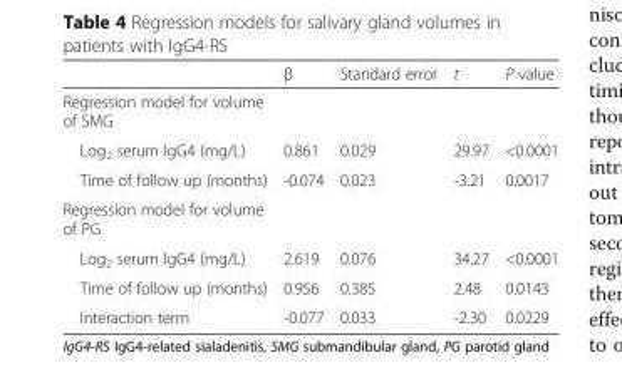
<table><thead><tr><td></td><td>β</td><td>Standard error</td><td>t</td><td>P value</td></tr></thead><tbody><tr><td colspan="5">Regression model for volume of SMG</td></tr><tr><td>Log<sub>2</sub> serum IgG4 (mg/L)</td><td>0.861</td><td>0.029</td><td>29.97</td><td>&lt;0.0001</td></tr><tr><td>Time of follow up (months)</td><td>-0.074</td><td>0.023</td><td>-3.21</td><td>0.0017</td></tr><tr><td colspan="5">Regression model for volume of PG</td></tr><tr><td>Log<sub>2</sub> serum IgG4 (mg/L)</td><td>2.619</td><td>0.076</td><td>34.27</td><td>&lt;0.0001</td></tr><tr><td>Time of follow up (months)</td><td>0.956</td><td>0.385</td><td>2.48</td><td>0.0143</td></tr><tr><td>Interaction term</td><td>-0.077</td><td>0.033</td><td>-2.30</td><td>0.0229</td></tr></tbody></table>